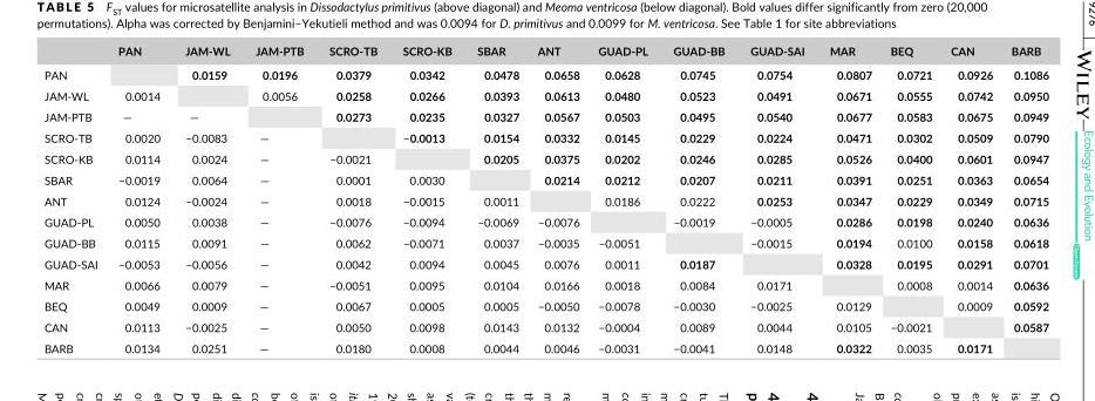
<table><thead><tr><td></td><td>PAN</td><td>JAM- WL</td><td>JAM- PTB</td><td>SCRO- TB</td><td>SCRO- KB</td><td>SBAR</td><td>ANT</td><td>GUAD- PL</td><td>GUAD- BB</td><td>GUAD- SAI</td><td>MAR</td><td>BEQ</td><td>CAN</td><td>BARB</td></tr></thead><tbody><tr><td>PAN</td><td></td><td>0.0159</td><td>0.0196</td><td>0.0379</td><td>0.0342</td><td>0.0478</td><td>0.0658</td><td>0.0628</td><td>0.0745</td><td>0.0754</td><td>0.0807</td><td>0.0721</td><td>0.0926</td><td>0.1086</td></tr><tr><td>JAM- WL</td><td>0.0014</td><td></td><td>0.0056</td><td>0.0258</td><td>0.0266</td><td>0.0393</td><td>0.0613</td><td>0.0480</td><td>0.0523</td><td>0.0491</td><td>0.0671</td><td>0.0555</td><td>0.0742</td><td>0.0950</td></tr><tr><td>JAM- PTB</td><td>—</td><td>—</td><td></td><td>0.0273</td><td>0.0235</td><td>0.0327</td><td>0.0567</td><td>0.0503</td><td>0.0495</td><td>0.0540</td><td>0.0677</td><td>0.0583</td><td>0.0675</td><td>0.0949</td></tr><tr><td>SCRO- TB</td><td>0.0020</td><td>−0.0083</td><td>—</td><td></td><td>−0.0013</td><td>0.0154</td><td>0.0332</td><td>0.0145</td><td>0.0229</td><td>0.0224</td><td>0.0471</td><td>0.0302</td><td>0.0509</td><td>0.0790</td></tr><tr><td>SCRO- KB</td><td>0.0114</td><td>0.0024</td><td>—</td><td>−0.0021</td><td></td><td>0.0205</td><td>0.0375</td><td>0.0202</td><td>0.0246</td><td>0.0285</td><td>0.0526</td><td>0.0400</td><td>0.0601</td><td>0.0947</td></tr><tr><td>SBAR</td><td>−0.0019</td><td>0.0064</td><td>—</td><td>0.0001</td><td>0.0030</td><td></td><td>0.0214</td><td>0.0212</td><td>0.0207</td><td>0.0211</td><td>0.0391</td><td>0.0251</td><td>0.0363</td><td>0.0654</td></tr><tr><td>ANT</td><td>0.0124</td><td>−0.0024</td><td>—</td><td>0.0018</td><td>−0.0015</td><td>0.0011</td><td></td><td>0.0186</td><td>0.0222</td><td>0.0253</td><td>0.0347</td><td>0.0229</td><td>0.0349</td><td>0.0715</td></tr><tr><td>GUAD- PL</td><td>0.0050</td><td>0.0038</td><td>—</td><td>−0.0076</td><td>−0.0094</td><td>−0.0069</td><td>−0.0076</td><td></td><td>−0.0019</td><td>−0.0005</td><td>0.0286</td><td>0.0198</td><td>0.0240</td><td>0.0636</td></tr><tr><td>GUAD- BB</td><td>0.0115</td><td>0.0091</td><td>—</td><td>0.0062</td><td>−0.0071</td><td>0.0037</td><td>−0.0035</td><td>−0.0051</td><td></td><td>−0.0015</td><td>0.0194</td><td>0.0100</td><td>0.0158</td><td>0.0618</td></tr><tr><td>GUAD- SAI</td><td>−0.0053</td><td>−0.0056</td><td>—</td><td>0.0042</td><td>0.0094</td><td>0.0045</td><td>0.0076</td><td>0.0011</td><td>0.0187</td><td></td><td>0.0328</td><td>0.0195</td><td>0.0291</td><td>0.0701</td></tr><tr><td>MAR</td><td>0.0066</td><td>0.0079</td><td>—</td><td>−0.0051</td><td>0.0095</td><td>0.0104</td><td>0.0166</td><td>0.0018</td><td>0.0084</td><td>0.0171</td><td></td><td>0.0008</td><td>0.0014</td><td>0.0636</td></tr><tr><td>BEQ</td><td>0.0049</td><td>0.0009</td><td>—</td><td>0.0067</td><td>0.0005</td><td>0.0005</td><td>−0.0050</td><td>−0.0078</td><td>−0.0030</td><td>−0.0025</td><td>0.0129</td><td></td><td>0.0009</td><td>0.0592</td></tr><tr><td>CAN</td><td>0.0113</td><td>−0.0025</td><td>—</td><td>0.0050</td><td>0.0098</td><td>0.0143</td><td>0.0132</td><td>−0.0004</td><td>0.0089</td><td>0.0044</td><td>0.0105</td><td>−0.0021</td><td></td><td>0.0587</td></tr><tr><td>BARB</td><td>0.0134</td><td>0.0251</td><td>—</td><td>0.0180</td><td>0.0008</td><td>0.0044</td><td>0.0046</td><td>−0.0031</td><td>−0.0041</td><td>0.0148</td><td>0.0322</td><td>0.0035</td><td>0.0171</td><td></td></tr></tbody></table>